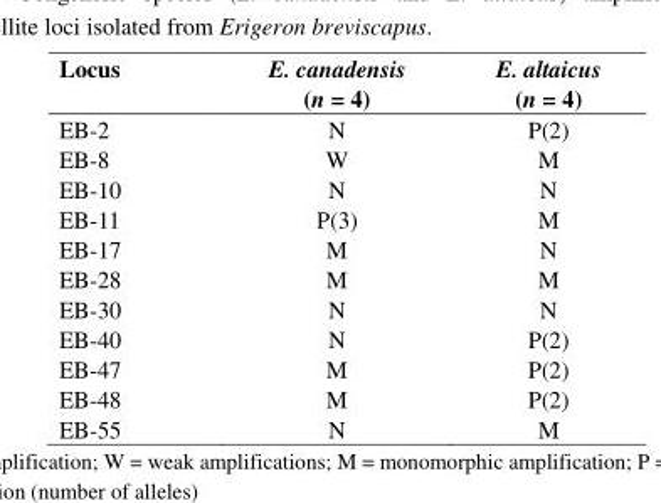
<table><thead><tr><td>Locus</td><td>E. canadensis (n = 4)</td><td>E. altaicus (n = 4)</td></tr></thead><tbody><tr><td>EB-2</td><td>N</td><td>P(2)</td></tr><tr><td>EB-8</td><td>W</td><td>M</td></tr><tr><td>EB-10</td><td>N</td><td>N</td></tr><tr><td>EB-11</td><td>P(3)</td><td>M</td></tr><tr><td>EB-17</td><td>M</td><td>N</td></tr><tr><td>EB-28</td><td>M</td><td>M</td></tr><tr><td>EB-30</td><td>N</td><td>N</td></tr><tr><td>EB-40</td><td>N</td><td>P(2)</td></tr><tr><td>EB-47</td><td>M</td><td>P(2)</td></tr><tr><td>EB-48</td><td>M</td><td>P(2)</td></tr><tr><td>EB-55</td><td>N</td><td>M</td></tr></tbody></table>